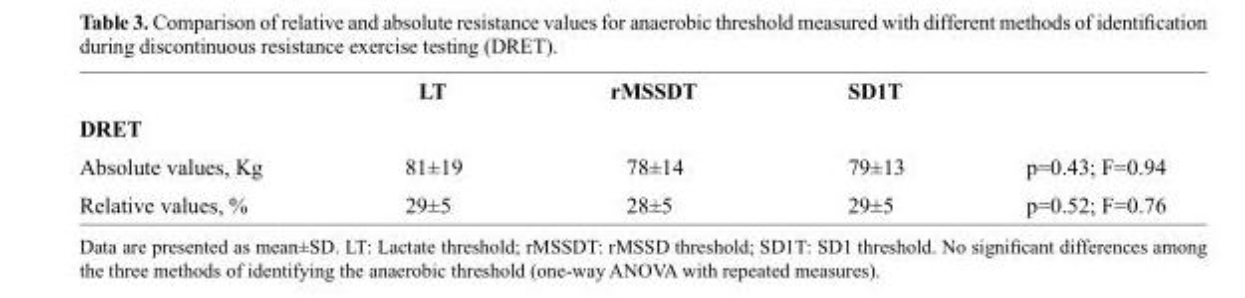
<table><thead><tr><td></td><td>LT</td><td>rMSSDT</td><td>SD1T</td><td></td></tr></thead><tbody><tr><td colspan="5">DRET</td></tr><tr><td>Absolute values, Kg</td><td>81±19</td><td>78±14</td><td>79±13</td><td>p=0.43; F=0.94</td></tr><tr><td>Relative values, %</td><td>29±5</td><td>28±5</td><td>29±5</td><td>p=0.52; F=0.76</td></tr></tbody></table>